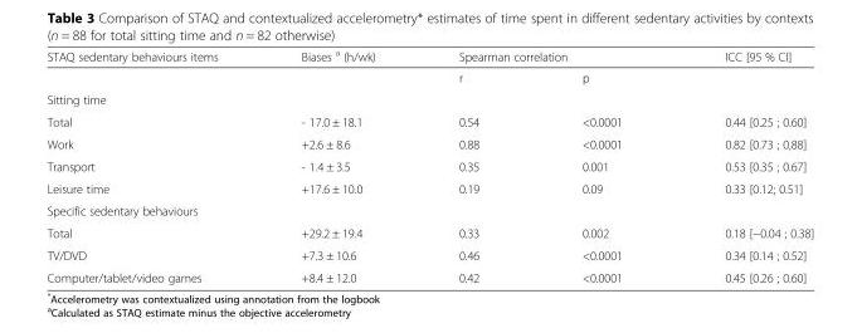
<table><thead><tr><td rowspan="2">STAQ sedentary behaviours items</td><td rowspan="2">Biases <sup>a</sup> (h/wk)</td><td colspan="2">Spearman correlation</td><td rowspan="2">ICC [95 % CI]</td></tr><tr><td>r</td><td>p</td></tr></thead><tbody><tr><td colspan="5">Sitting time</td></tr><tr><td>Total</td><td>- 17.0 ± 18.1</td><td>0.54</td><td>&lt;0.0001</td><td>0.44 [0.25 ; 0.60]</td></tr><tr><td>Work</td><td>+2.6 ± 8.6</td><td>0.88</td><td>&lt;0.0001</td><td>0.82 [0.73 ; 0,88]</td></tr><tr><td>Transport</td><td>- 1.4 ± 3.5</td><td>0.35</td><td>0.001</td><td>0.53 [0.35 ; 0.67]</td></tr><tr><td>Leisure time</td><td>+17.6 ± 10.0</td><td>0.19</td><td>0.09</td><td>0.33 [0.12; 0.51]</td></tr><tr><td colspan="5">Specific sedentary behaviours</td></tr><tr><td>Total</td><td>+29.2 ± 19.4</td><td>0.33</td><td>0.002</td><td>0.18 [−0.04 ; 0.38]</td></tr><tr><td>TV/DVD</td><td>+7.3 ± 10.6</td><td>0.46</td><td>&lt;0.0001</td><td>0.34 [0.14 ; 0.52]</td></tr><tr><td>Computer/tablet/video games</td><td>+8.4 ± 12.0</td><td>0.42</td><td>&lt;0.0001</td><td>0.45 [0.26 ; 0.60]</td></tr></tbody></table>